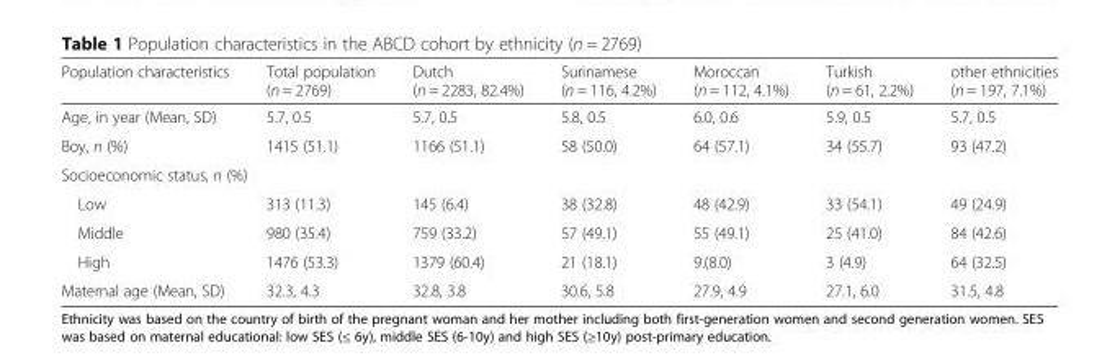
<table><thead><tr><td>Population characteristics</td><td>Total population (n = 2769)</td><td>Dutch (n = 2283, 82.4%)</td><td>Surinamese (n = 116, 4.2%)</td><td>Moroccan (n = 112, 4.1%)</td><td>Turkish (n = 61, 2.2%)</td><td>other ethnicities (n = 197, 7.1%)</td></tr></thead><tbody><tr><td>Age, in year (Mean, SD)</td><td>5.7, 0.5</td><td>5.7, 0.5</td><td>5.8, 0.5</td><td>6.0, 0.6</td><td>5.9, 0.5</td><td>5.7, 0.5</td></tr><tr><td>Boy, n (%)</td><td>1415 (51.1)</td><td>1166 (51.1)</td><td>58 (50.0)</td><td>64 (57.1)</td><td>34 (55.7)</td><td>93 (47.2)</td></tr><tr><td colspan="7">Socioeconomic status, n (%)</td></tr><tr><td>Low</td><td>313 (11.3)</td><td>145 (6.4)</td><td>38 (32.8)</td><td>48 (42.9)</td><td>33 (54.1)</td><td>49 (24.9)</td></tr><tr><td>Middle</td><td>980 (35.4)</td><td>759 (33.2)</td><td>57 (49.1)</td><td>55 (49.1)</td><td>25 (41.0)</td><td>84 (42.6)</td></tr><tr><td>High</td><td>1476 (53.3)</td><td>1379 (60.4)</td><td>21 (18.1)</td><td>9.(8.0)</td><td>3 (4.9)</td><td>64 (32.5)</td></tr><tr><td>Maternal age (Mean, SD)</td><td>32.3, 4.3</td><td>32.8, 3.8</td><td>30.6, 5.8</td><td>27.9, 4.9</td><td>27.1, 6.0</td><td>31.5, 4.8</td></tr></tbody></table>